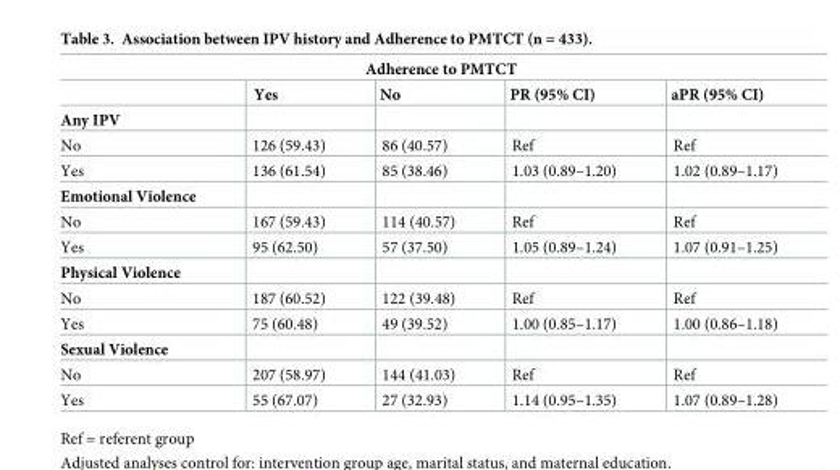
<table><thead><tr><td colspan="5">Adherence to PMTCT</td></tr><tr><td></td><td>Yes</td><td>No</td><td>PR (95% CI)</td><td>aPR (95% CI)</td></tr></thead><tbody><tr><td colspan="5">Any IPV</td></tr><tr><td>No</td><td>126 (59.43)</td><td>86 (40.57)</td><td>Ref</td><td>Ref</td></tr><tr><td>Yes</td><td>136 (61.54)</td><td>85 (38.46)</td><td>1.03 (0.89–1.20)</td><td>1.02 (0.89–1.17)</td></tr><tr><td colspan="5">Emotional Violence</td></tr><tr><td>No</td><td>167 (59.43)</td><td>114 (40.57)</td><td>Ref</td><td>Ref</td></tr><tr><td>Yes</td><td>95 (62.50)</td><td>57 (37.50)</td><td>1.05 (0.89–1.24)</td><td>1.07 (0.91–1.25)</td></tr><tr><td colspan="5">Physical Violence</td></tr><tr><td>No</td><td>187 (60.52)</td><td>122 (39.48)</td><td>Ref</td><td>Ref</td></tr><tr><td>Yes</td><td>75 (60.48)</td><td>49 (39.52)</td><td>1.00 (0.85–1.17)</td><td>1.00 (0.86–1.18)</td></tr><tr><td colspan="5">Sexual Violence</td></tr><tr><td>No</td><td>207 (58.97)</td><td>144 (41.03)</td><td>Ref</td><td>Ref</td></tr><tr><td>Yes</td><td>55 (67.07)</td><td>27 (32.93)</td><td>1.14 (0.95–1.35)</td><td>1.07 (0.89–1.28)</td></tr></tbody></table>